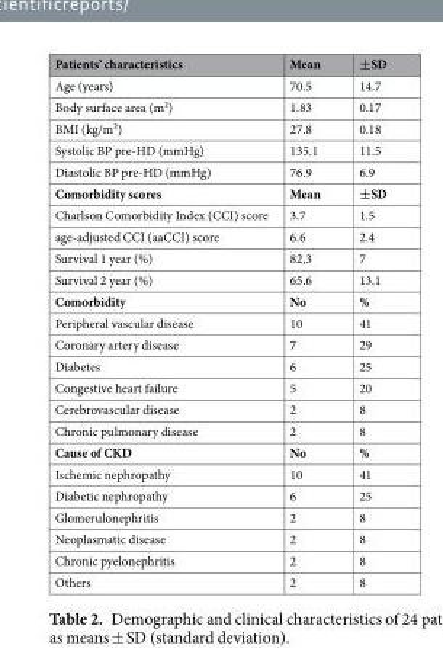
<table><thead><tr><td>Patients’ characteristics</td><td>Mean</td><td>±SD</td></tr></thead><tbody><tr><td>Age (years)</td><td>70.5</td><td>14.7</td></tr><tr><td>Body surface area (m²)</td><td>1.83</td><td>0.17</td></tr><tr><td>BMI (kg/m²)</td><td>27.8</td><td>0.18</td></tr><tr><td>Systolic BP pre-HD (mmHg)</td><td>135.1</td><td>11.5</td></tr><tr><td>Diastolic BP pre-HD (mmHg)</td><td>76.9</td><td>6.9</td></tr><tr><td>Comorbidity scores</td><td>Mean</td><td>±SD</td></tr><tr><td>Charlson Comorbidity Index (CCI) score</td><td>3.7</td><td>1.5</td></tr><tr><td>age-adjusted CCI (aaCCI) score</td><td>6.6</td><td>2.4</td></tr><tr><td>Survival 1 year (%)</td><td>82,3</td><td>7</td></tr><tr><td>Survival 2 year (%)</td><td>65.6</td><td>13.1</td></tr><tr><td>Comorbidity</td><td>No</td><td>%</td></tr><tr><td>Peripheral vascular disease</td><td>10</td><td>41</td></tr><tr><td>Coronary artery disease</td><td>7</td><td>29</td></tr><tr><td>Diabetes</td><td>6</td><td>25</td></tr><tr><td>Congestive heart failure</td><td>5</td><td>20</td></tr><tr><td>Cerebrovascular disease</td><td>2</td><td>8</td></tr><tr><td>Chronic pulmonary disease</td><td>2</td><td>8</td></tr><tr><td>Cause of CKD</td><td>No</td><td>%</td></tr><tr><td>Ischemic nephropathy</td><td>10</td><td>41</td></tr><tr><td>Diabetic nephropathy</td><td>6</td><td>25</td></tr><tr><td>Glomerulonephritis</td><td>2</td><td>8</td></tr><tr><td>Neoplasmatic disease</td><td>2</td><td>8</td></tr><tr><td>Chronic pyelonephritis</td><td>2</td><td>8</td></tr><tr><td>Others</td><td>2</td><td>8</td></tr></tbody></table>